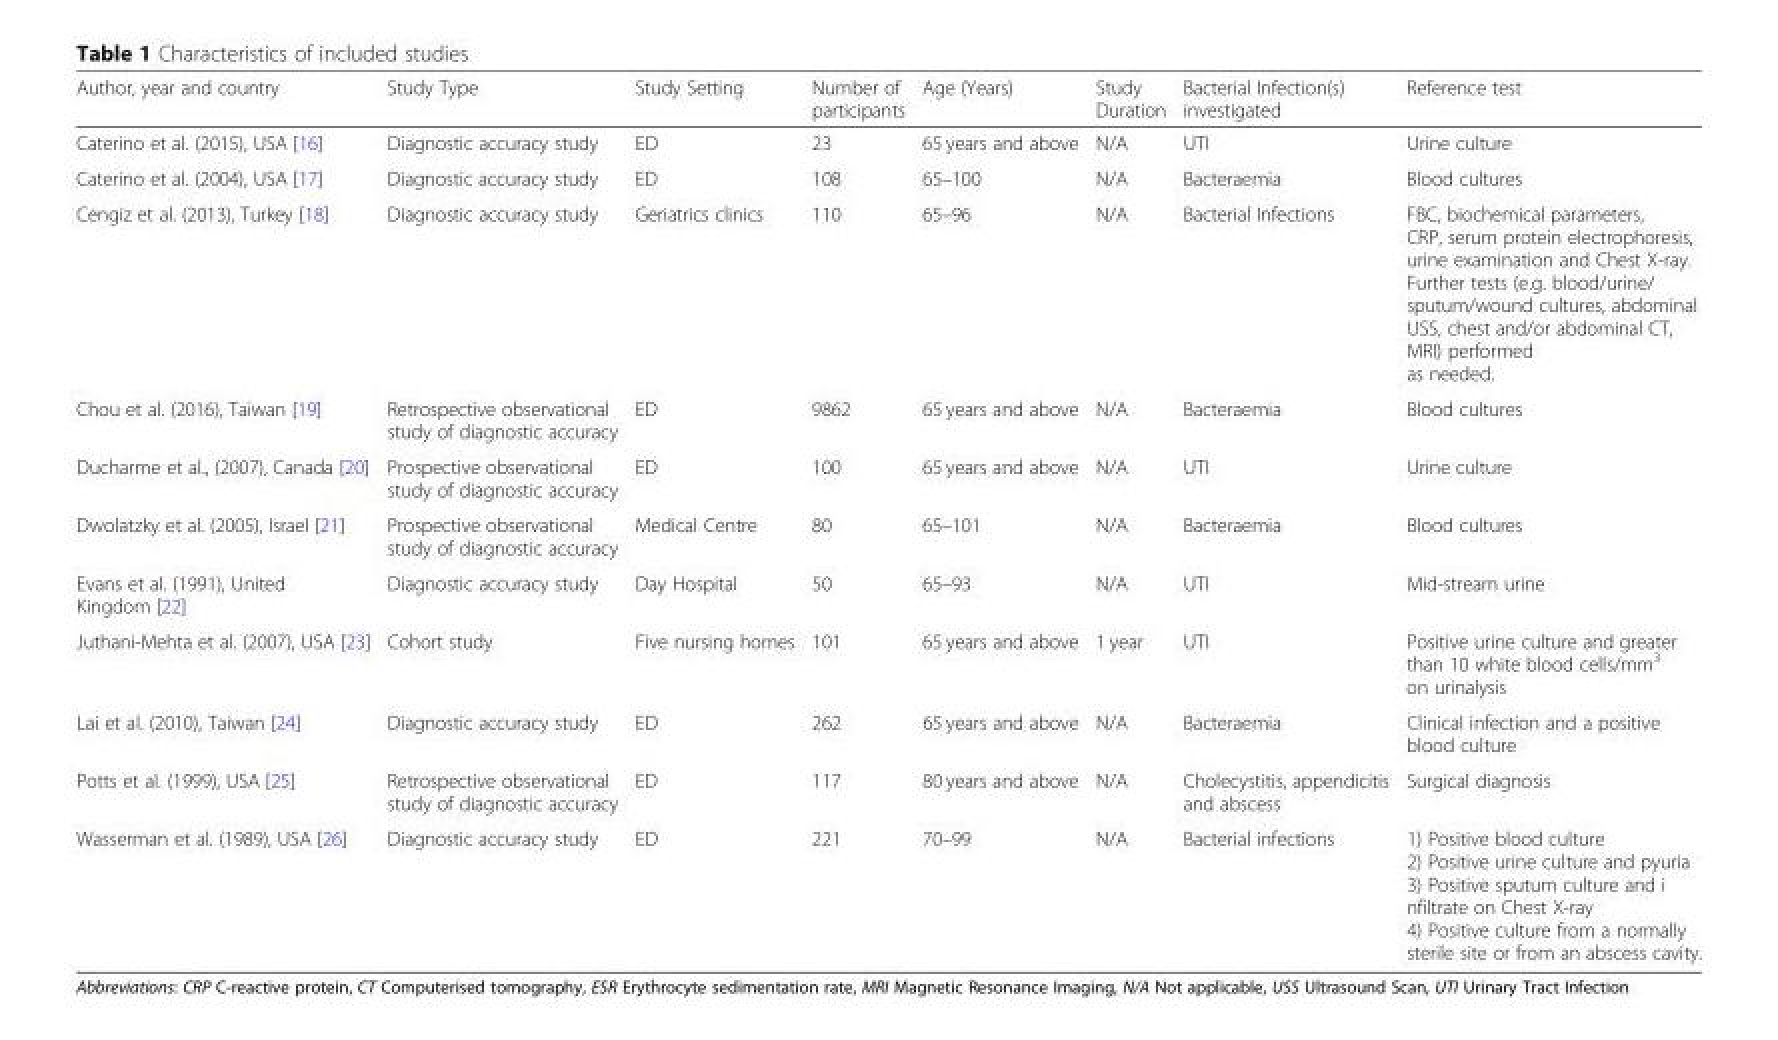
<table><thead><tr><td>Author, year and country</td><td>Study Type</td><td>Study Setting</td><td>Number of participants</td><td>Age (Years)</td><td>Study Duration</td><td>Bacterial Infection(s) investigated</td><td>Reference test</td></tr></thead><tbody><tr><td>Caterino et al. (2015), USA [16]</td><td>Diagnostic accuracy study</td><td>ED</td><td>23</td><td>65 years and above</td><td>N/A</td><td>UTI</td><td>Urine culture</td></tr><tr><td>Caterino et al. (2004), USA [17]</td><td>Diagnostic accuracy study</td><td>ED</td><td>108</td><td>65–100</td><td>N/A</td><td>Bacteraemia</td><td>Blood cultures</td></tr><tr><td>Cengiz et al. (2013), Turkey [18]</td><td>Diagnostic accuracy study</td><td>Geriatrics clinics</td><td>110</td><td>65–96</td><td>N/A</td><td>Bacterial Infections</td><td>FBC, biochemical parameters, CRP, serum protein electrophoresis, urine examination and Chest X-ray. Further tests (e.g. blood/urine/ sputum/wound cultures, abdominal USS, chest and/or abdominal CT, MRI) performed as needed.</td></tr><tr><td>Chou et al. (2016), Taiwan [19]</td><td>Retrospective observational study of diagnostic accuracy</td><td>ED</td><td>9862</td><td>65 years and above</td><td>N/A</td><td>Bacteraemia</td><td>Blood cultures</td></tr><tr><td>Ducharme et al., (2007), Canada [20]</td><td>Prospective observational study of diagnostic accuracy</td><td>ED</td><td>100</td><td>65 years and above</td><td>N/A</td><td>UTI</td><td>Urine culture</td></tr><tr><td>Dwolatzky et al. (2005), Israel [21]</td><td>Prospective observational study of diagnostic accuracy</td><td>Medical Centre</td><td>80</td><td>65–101</td><td>N/A</td><td>Bacteraemia</td><td>Blood cultures</td></tr><tr><td>Evans et al. (1991), United Kingdom [22]</td><td>Diagnostic accuracy study</td><td>Day Hospital</td><td>50</td><td>65–93</td><td>N/A</td><td>UTI</td><td>Mid-stream urine</td></tr><tr><td>Juthani-Mehta et al. (2007), USA [23]</td><td>Cohort study</td><td>Five nursing homes</td><td>101</td><td>65 years and above</td><td>1 year</td><td>UTI</td><td>Positive urine culture and greater than 10 white blood cells/mm<sup>3</sup> on urinalysis</td></tr><tr><td>Lai et al. (2010), Taiwan [24]</td><td>Diagnostic accuracy study</td><td>ED</td><td>262</td><td>65 years and above</td><td>N/A</td><td>Bacteraemia</td><td>Clinical infection and a positive blood culture</td></tr><tr><td>Potts et al. (1999), USA [25]</td><td>Retrospective observational study of diagnostic accuracy</td><td>ED</td><td>117</td><td>80 years and above</td><td>N/A</td><td>Cholecystitis, appendicitis and abscess</td><td>Surgical diagnosis</td></tr><tr><td>Wasserman et al. (1989), USA [26]</td><td>Diagnostic accuracy study</td><td>ED</td><td>221</td><td>70–99</td><td>N/A</td><td>Bacterial infections</td><td>1) Positive blood culture 2) Positive urine culture and pyuria 3) Positive sputum culture and i nfiltrate on Chest X-ray 4) Positive culture from a normally sterile site or from an abscess cavity.</td></tr></tbody></table>